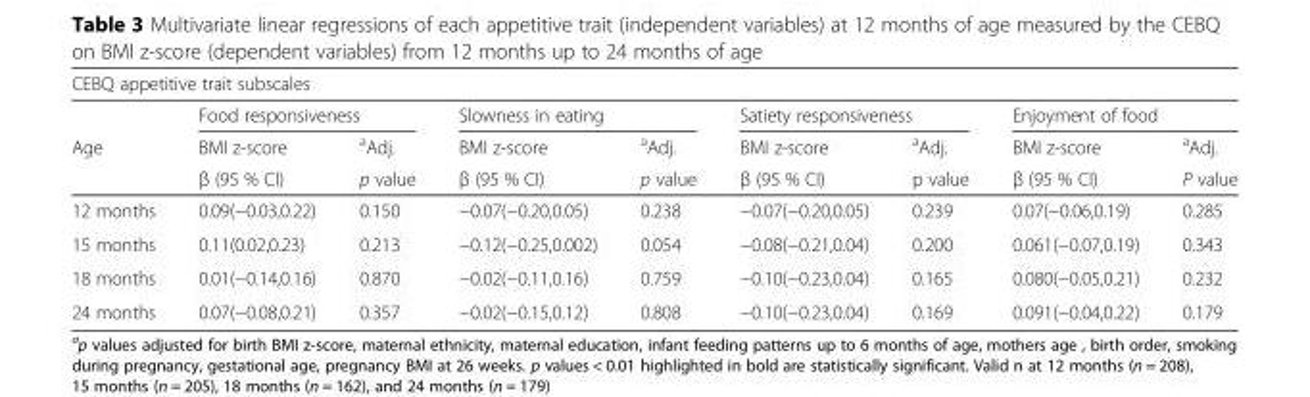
<table><thead><tr><td colspan="9">CEBQ appetitive trait subscales</td></tr><tr><td rowspan="3">Age</td><td colspan="2">Food responsiveness</td><td colspan="2">Slowness in eating</td><td colspan="2">Satiety responsiveness</td><td colspan="2">Enjoyment of food</td></tr><tr><td rowspan="2">BMI z-score β (95 % CI)</td><td rowspan="2">aAdj. p value</td><td rowspan="2">BMI z-score β (95 % CI)</td><td rowspan="2">aAdj. p value</td><td rowspan="2">BMI z-score β (95 % CI)</td><td rowspan="2">aAdj. p value</td><td rowspan="2">BMI z-score β (95 % CI)</td><td rowspan="2">aAdj. P value</td></tr><tr></tr></thead><tbody><tr><td>12 months</td><td>0.09(−0.03,0.22)</td><td>0.150</td><td>−0.07(−0.20,0.05)</td><td>0.238</td><td>−0.07(−0.20,0.05)</td><td>0.239</td><td>0.07(−0.06,0.19)</td><td>0.285</td></tr><tr><td>15 months</td><td>0.11(0.02,0.23)</td><td>0.213</td><td>−0.12(−0.25,0.002)</td><td>0.054</td><td>−0.08(−0.21,0.04)</td><td>0.200</td><td>0.061(−0.07,0.19)</td><td>0.343</td></tr><tr><td>18 months</td><td>0.01(−0.14,0.16)</td><td>0.870</td><td>−0.02(−0.11,0.16)</td><td>0.759</td><td>−0.10(−0.23,0.04)</td><td>0.165</td><td>0.080(−0.05,0.21)</td><td>0.232</td></tr><tr><td>24 months</td><td>0.07(−0.08,0.21)</td><td>0.357</td><td>−0.02(−0.15,0.12)</td><td>0.808</td><td>−0.10(−0.23,0.04)</td><td>0.169</td><td>0.091(−0.04,0.22)</td><td>0.179</td></tr></tbody></table>